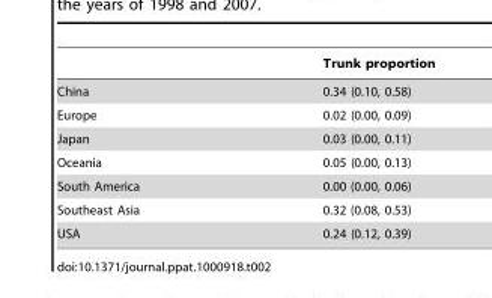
<table><thead><tr><td></td><td>Trunk proportion</td></tr></thead><tbody><tr><td>China</td><td>0.34 (0.10, 0.58)</td></tr><tr><td>Europe</td><td>0.02 (0.00, 0.09)</td></tr><tr><td>Japan</td><td>0.03 (0.00, 0.11)</td></tr><tr><td>Oceania</td><td>0.05 (0.00, 0.13)</td></tr><tr><td>South America</td><td>0.00 (0.00, 0.06)</td></tr><tr><td>Southeast Asia</td><td>0.32 (0.08, 0.53)</td></tr><tr><td>USA</td><td>0.24 (0.12, 0.39)</td></tr></tbody></table>